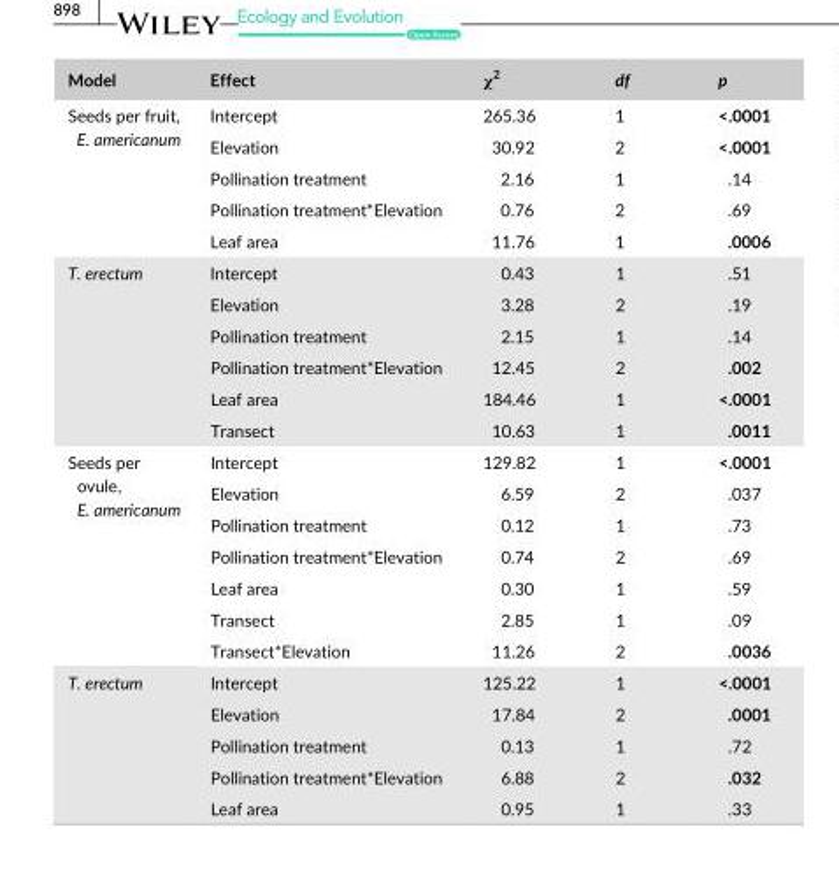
<table><thead><tr><td>Model</td><td>Effect</td><td>χ<sup>2</sup></td><td>df</td><td>p</td></tr></thead><tbody><tr><td rowspan="5">Seeds per fruit, E. americanum</td><td>Intercept</td><td>265.36</td><td>1</td><td>&lt;.0001</td></tr><tr><td>Elevation</td><td>30.92</td><td>2</td><td>&lt;.0001</td></tr><tr><td>Pollination treatment</td><td>2.16</td><td>1</td><td>.14</td></tr><tr><td>Pollination treatment*Elevation</td><td>0.76</td><td>2</td><td>.69</td></tr><tr><td>Leaf area</td><td>11.76</td><td>1</td><td>.0006</td></tr><tr><td rowspan="6">T. erectum</td><td>Intercept</td><td>0.43</td><td>1</td><td>.51</td></tr><tr><td>Elevation</td><td>3.28</td><td>2</td><td>.19</td></tr><tr><td>Pollination treatment</td><td>2.15</td><td>1</td><td>.14</td></tr><tr><td>Pollination treatment*Elevation</td><td>12.45</td><td>2</td><td>.002</td></tr><tr><td>Leaf area</td><td>184.46</td><td>1</td><td>&lt;.0001</td></tr><tr><td>Transect</td><td>10.63</td><td>1</td><td>.0011</td></tr><tr><td rowspan="7">Seeds per ovule, E. americanum</td><td>Intercept</td><td>129.82</td><td>1</td><td>&lt;.0001</td></tr><tr><td>Elevation</td><td>6.59</td><td>2</td><td>.037</td></tr><tr><td>Pollination treatment</td><td>0.12</td><td>1</td><td>.73</td></tr><tr><td>Pollination treatment*Elevation</td><td>0.74</td><td>2</td><td>.69</td></tr><tr><td>Leaf area</td><td>0.30</td><td>1</td><td>.59</td></tr><tr><td>Transect</td><td>2.85</td><td>1</td><td>.09</td></tr><tr><td>Transect*Elevation</td><td>11.26</td><td>2</td><td>.0036</td></tr><tr><td rowspan="5">T. erectum</td><td>Intercept</td><td>125.22</td><td>1</td><td>&lt;.0001</td></tr><tr><td>Elevation</td><td>17.84</td><td>2</td><td>.0001</td></tr><tr><td>Pollination treatment</td><td>0.13</td><td>1</td><td>.72</td></tr><tr><td>Pollination treatment*Elevation</td><td>6.88</td><td>2</td><td>.032</td></tr><tr><td>Leaf area</td><td>0.95</td><td>1</td><td>.33</td></tr></tbody></table>